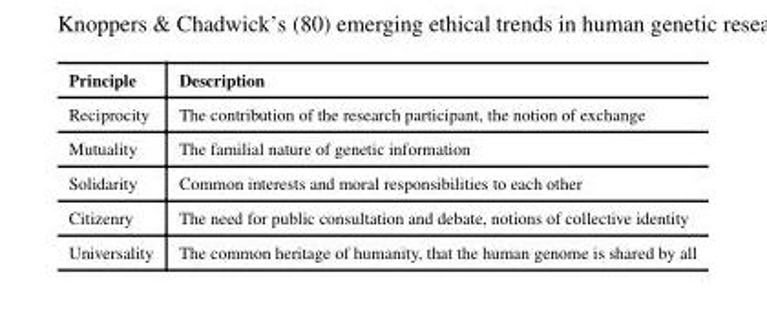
<table><thead><tr><td>Principle</td><td>Description</td></tr></thead><tbody><tr><td>Reciprocity</td><td>The contribution of the research participant, the notion of exchange</td></tr><tr><td>Mutuality</td><td>The familial nature of genetic information</td></tr><tr><td>Solidarity</td><td>Common interests and moral responsibilities to each other</td></tr><tr><td>Citizenry</td><td>The need for public consultation and debate, notions of collective identity</td></tr><tr><td>Universality</td><td>The common heritage of humanity, that the human genome is shared by all</td></tr></tbody></table>